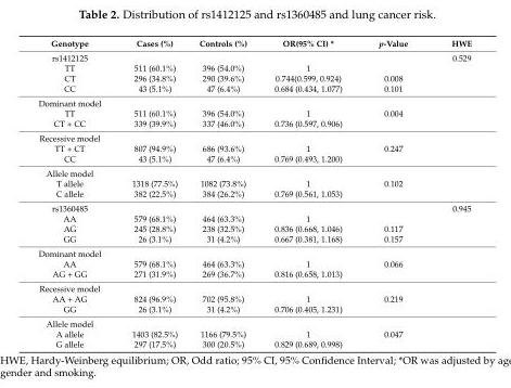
<table><thead><tr><td>Genotype</td><td>Cases (%)</td><td>Controls (%)</td><td>OR(95% CI) *</td><td>p-Value</td><td>HWE</td></tr></thead><tbody><tr><td>rs1412125</td><td></td><td></td><td></td><td></td><td>0.529</td></tr><tr><td>TT</td><td>511 (60.1%)</td><td>396 (54.0%)</td><td>1</td><td></td><td></td></tr><tr><td>CT</td><td>296 (34.8%)</td><td>290 (39.6%)</td><td>0.744(0.599, 0.924)</td><td>0.008</td><td></td></tr><tr><td>CC</td><td>43 (5.1%)</td><td>47 (6.4%)</td><td>0.684 (0.434, 1.077)</td><td>0.101</td><td></td></tr><tr><td colspan="6">Dominant model</td></tr><tr><td>TT</td><td>511 (60.1%)</td><td>396 (54.0%)</td><td>1</td><td>0.004</td><td></td></tr><tr><td>CT + CC</td><td>339 (39.9%)</td><td>337 (46.0%)</td><td>0.736 (0.597, 0.906)</td><td></td><td></td></tr><tr><td colspan="6">Recessive model</td></tr><tr><td>TT + CT</td><td>807 (94.9%)</td><td>686 (93.6%)</td><td>1</td><td>0.247</td><td></td></tr><tr><td>CC</td><td>43 (5.1%)</td><td>47 (6.4%)</td><td>0.769 (0.493, 1.200)</td><td></td><td></td></tr><tr><td colspan="6">Allele model</td></tr><tr><td>T allele</td><td>1318 (77.5%)</td><td>1082 (73.8%)</td><td>1</td><td>0.102</td><td></td></tr><tr><td>C allele</td><td>382 (22.5%)</td><td>384 (26.2%)</td><td>0.769 (0.561, 1.053)</td><td></td><td></td></tr><tr><td>rs1360485</td><td></td><td></td><td></td><td></td><td>0.945</td></tr><tr><td>AA</td><td>579 (68.1%)</td><td>464 (63.3%)</td><td>1</td><td></td><td></td></tr><tr><td>AG</td><td>245 (28.8%)</td><td>238 (32.5%)</td><td>0.836 (0.668, 1.046)</td><td>0.117</td><td></td></tr><tr><td>GG</td><td>26 (3.1%)</td><td>31 (4.2%)</td><td>0.667 (0.381, 1.168)</td><td>0.157</td><td></td></tr><tr><td colspan="6">Dominant model</td></tr><tr><td>AA</td><td>579 (68.1%)</td><td>464 (63.3%)</td><td>1</td><td>0.066</td><td></td></tr><tr><td>AG + GG</td><td>271 (31.9%)</td><td>269 (36.7%)</td><td>0.816 (0.658, 1.013)</td><td></td><td></td></tr><tr><td colspan="6">Recessive model</td></tr><tr><td>AA + AG</td><td>824 (96.9%)</td><td>702 (95.8%)</td><td>1</td><td>0.219</td><td></td></tr><tr><td>GG</td><td>26 (3.1%)</td><td>31 (4.2%)</td><td>0.706 (0.405, 1.231)</td><td></td><td></td></tr><tr><td colspan="6">Allele model</td></tr><tr><td>A allele</td><td>1403 (82.5%)</td><td>1166 (79.5%)</td><td>1</td><td>0.047</td><td></td></tr><tr><td>G allele</td><td>297 (17.5%)</td><td>300 (20.5%)</td><td>0.829 (0.689, 0.998)</td><td></td><td></td></tr></tbody></table>